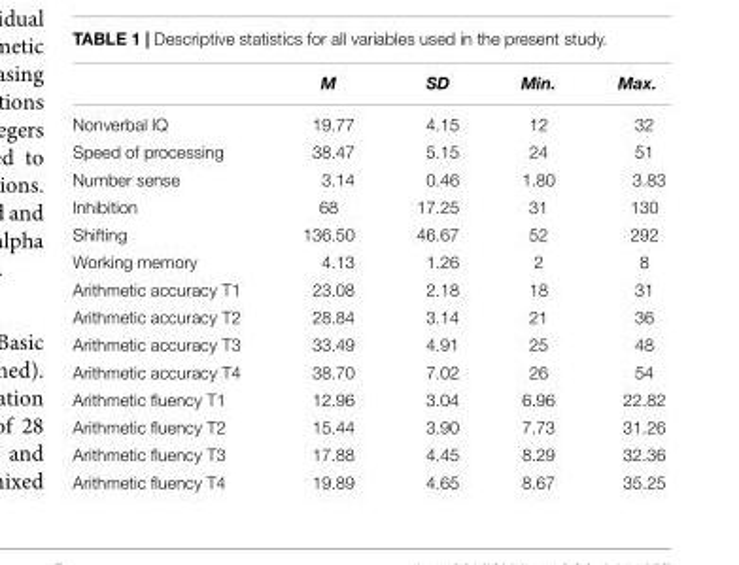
<table><thead><tr><td></td><td>M</td><td>SD</td><td>Min.</td><td>Max.</td></tr></thead><tbody><tr><td>Nonverbal IQ</td><td>19.77</td><td>4.15</td><td>12</td><td>32</td></tr><tr><td>Speed of processing</td><td>38.47</td><td>5.15</td><td>24</td><td>51</td></tr><tr><td>Number sense</td><td>3.14</td><td>0.46</td><td>1.80</td><td>3.83</td></tr><tr><td>Inhibition</td><td>68</td><td>17.25</td><td>31</td><td>130</td></tr><tr><td>Shifting</td><td>136.50</td><td>46.67</td><td>52</td><td>292</td></tr><tr><td>Working memory</td><td>4.13</td><td>1.26</td><td>2</td><td>8</td></tr><tr><td>Arithmetic accuracy T1</td><td>23.08</td><td>2.18</td><td>18</td><td>31</td></tr><tr><td>Arithmetic accuracy T2</td><td>28.84</td><td>3.14</td><td>21</td><td>36</td></tr><tr><td>Arithmetic accuracy T3</td><td>33.49</td><td>4.91</td><td>25</td><td>48</td></tr><tr><td>Arithmetic accuracy T4</td><td>38.70</td><td>7.02</td><td>26</td><td>54</td></tr><tr><td>Arithmetic fluency T1</td><td>12.96</td><td>3.04</td><td>6.96</td><td>22.82</td></tr><tr><td>Arithmetic fluency T2</td><td>15.44</td><td>3.90</td><td>7.73</td><td>31.26</td></tr><tr><td>Arithmetic fluency T3</td><td>17.88</td><td>4.45</td><td>8.29</td><td>32.36</td></tr><tr><td>Arithmetic fluency T4</td><td>19.89</td><td>4.65</td><td>8.67</td><td>35.25</td></tr></tbody></table>